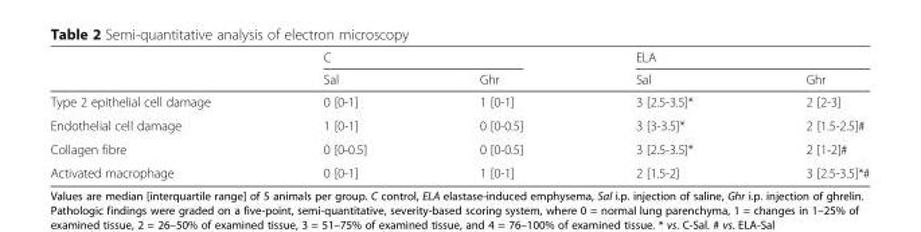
<table><thead><tr><td rowspan="2"></td><td colspan="2">C</td><td colspan="2">ELA</td></tr><tr><td>Sal</td><td>Ghr</td><td>Sal</td><td>Ghr</td></tr></thead><tbody><tr><td>Type 2 epithelial cell damage</td><td>0 [0-1]</td><td>1 [0-1]</td><td>3 [2.5-3.5]*</td><td>2 [2-3]</td></tr><tr><td>Endothelial cell damage</td><td>1 [0-1]</td><td>0 [0-0.5]</td><td>3 [3-3.5]*</td><td>2 [1.5-2.5]#</td></tr><tr><td>Collagen fibre</td><td>0 [0-0.5]</td><td>0 [0-0.5]</td><td>3 [2.5-3.5]*</td><td>2 [1-2]#</td></tr><tr><td>Activated macrophage</td><td>0 [0-1]</td><td>1 [0-1]</td><td>2 [1.5-2]</td><td>3 [2.5-3.5]*#</td></tr></tbody></table>